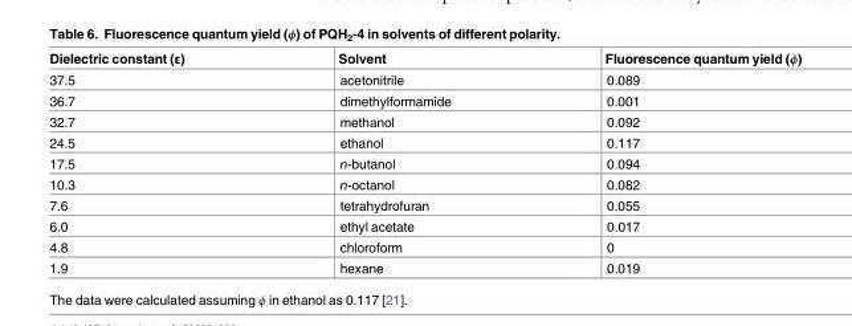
<table><thead><tr><td>Dielectric constant (ε)</td><td>Solvent</td><td>Fluorescence quantum yield (ϕ)</td></tr></thead><tbody><tr><td>37.5</td><td>acetonitrile</td><td>0.089</td></tr><tr><td>36.7</td><td>dimethylformamide</td><td>0.001</td></tr><tr><td>32.7</td><td>methanol</td><td>0.092</td></tr><tr><td>24.5</td><td>ethanol</td><td>0.117</td></tr><tr><td>17.5</td><td>n-butanol</td><td>0.094</td></tr><tr><td>10.3</td><td>n-octanol</td><td>0.082</td></tr><tr><td>7.6</td><td>tetrahydrofuran</td><td>0.055</td></tr><tr><td>6.0</td><td>ethyl acetate</td><td>0.017</td></tr><tr><td>4.8</td><td>chloroform</td><td>0</td></tr><tr><td>1.9</td><td>hexane</td><td>0.019</td></tr></tbody></table>